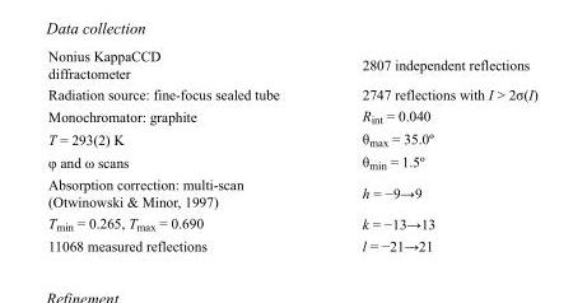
<table><tbody><tr><td>Nonius KappaCCD diffractometer</td><td>2807 independent reflections</td></tr><tr><td>Radiation source: fine-focus sealed tube</td><td>2747 reflections with I &gt; 2σ(I)</td></tr><tr><td>Monochromator: graphite</td><td>R<sub>int</sub> = 0.040</td></tr><tr><td>T = 293(2) K</td><td>θ<sub>max</sub> = 35.0º</td></tr><tr><td>φ and ω scans</td><td>θ<sub>min</sub> = 1.5º</td></tr><tr><td>Absorption correction: multi-scan (Otwinowski &amp; Minor, 1997)</td><td>h = −9→9</td></tr><tr><td>T<sub>min</sub> = 0.265, T<sub>max</sub> = 0.690</td><td>k = −13→13</td></tr><tr><td>11068 measured reflections</td><td>l = −21→21</td></tr></tbody></table>